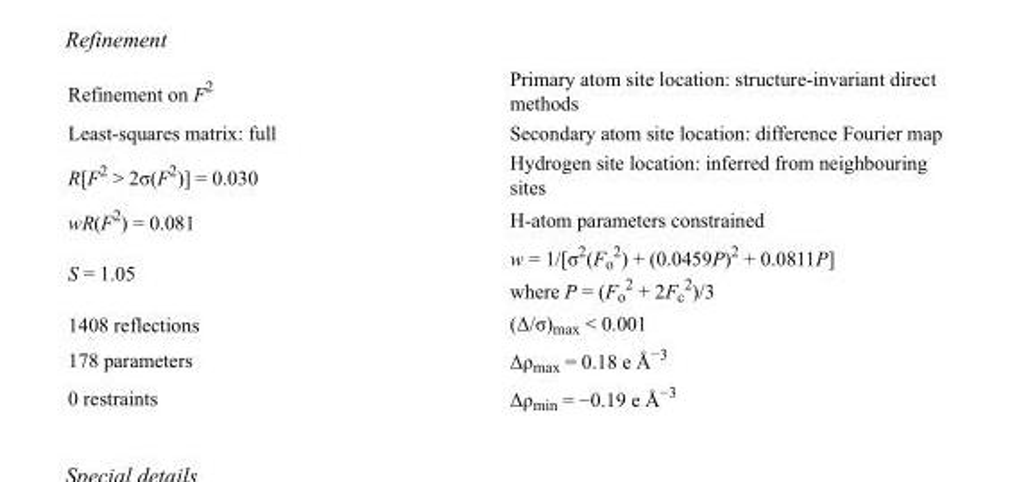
<table><tbody><tr><td>Refinement on F<sup>2</sup></td><td>Primary atom site location: structure-invariant direct methods</td></tr><tr><td>Least-squares matrix: full</td><td>Secondary atom site location: difference Fourier map</td></tr><tr><td>R[F<sup>2</sup> &gt; 2σ(F<sup>2</sup>)] = 0.030</td><td>Hydrogen site location: inferred from neighbouring sites</td></tr><tr><td>wR(F<sup>2</sup>) = 0.081</td><td>H-atom parameters constrained</td></tr><tr><td>S = 1.05</td><td>w = 1/[σ<sup>2</sup>(F<sub>o</sub> <sup>2</sup>) + (0.0459P)<sup>2</sup> + 0.0811P] where P = (F<sub>o</sub> <sup>2</sup> + 2F<sub>c</sub> <sup>2</sup>)/3</td></tr><tr><td>1408 reflections</td><td>(Δ/σ)<sub>max</sub> &lt; 0.001</td></tr><tr><td>178 parameters</td><td>Δρ<sub>max</sub> = 0.18 e Å<sup>−3</sup></td></tr><tr><td>0 restraints</td><td>Δρ<sub>min</sub> = −0.19 e Å<sup>−3</sup></td></tr></tbody></table>